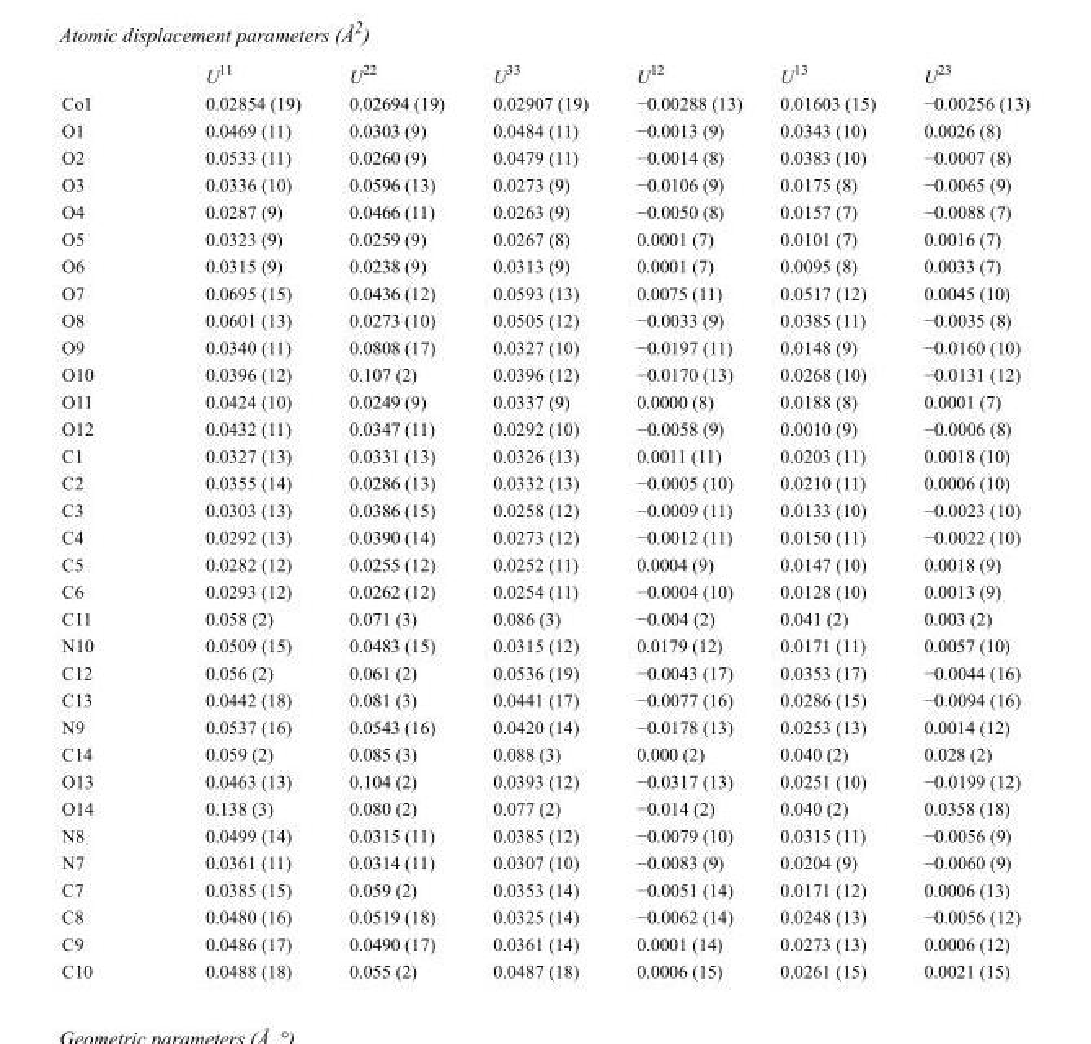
<table><thead><tr><td></td><td>U<sup>11</sup></td><td>U<sup>22</sup></td><td>U<sup>33</sup></td><td>U<sup>12</sup></td><td>U<sup>13</sup></td><td>U<sup>23</sup></td></tr></thead><tbody><tr><td>Co1</td><td>0.02854 (19)</td><td>0.02694 (19)</td><td>0.02907 (19)</td><td>−0.00288 (13)</td><td>0.01603 (15)</td><td>−0.00256 (13)</td></tr><tr><td>O1</td><td>0.0469 (11)</td><td>0.0303 (9)</td><td>0.0484 (11)</td><td>−0.0013 (9)</td><td>0.0343 (10)</td><td>0.0026 (8)</td></tr><tr><td>O2</td><td>0.0533 (11)</td><td>0.0260 (9)</td><td>0.0479 (11)</td><td>−0.0014 (8)</td><td>0.0383 (10)</td><td>−0.0007 (8)</td></tr><tr><td>O3</td><td>0.0336 (10)</td><td>0.0596 (13)</td><td>0.0273 (9)</td><td>−0.0106 (9)</td><td>0.0175 (8)</td><td>−0.0065 (9)</td></tr><tr><td>O4</td><td>0.0287 (9)</td><td>0.0466 (11)</td><td>0.0263 (9)</td><td>−0.0050 (8)</td><td>0.0157 (7)</td><td>−0.0088 (7)</td></tr><tr><td>O5</td><td>0.0323 (9)</td><td>0.0259 (9)</td><td>0.0267 (8)</td><td>0.0001 (7)</td><td>0.0101 (7)</td><td>0.0016 (7)</td></tr><tr><td>O6</td><td>0.0315 (9)</td><td>0.0238 (9)</td><td>0.0313 (9)</td><td>0.0001 (7)</td><td>0.0095 (8)</td><td>0.0033 (7)</td></tr><tr><td>O7</td><td>0.0695 (15)</td><td>0.0436 (12)</td><td>0.0593 (13)</td><td>0.0075 (11)</td><td>0.0517 (12)</td><td>0.0045 (10)</td></tr><tr><td>O8</td><td>0.0601 (13)</td><td>0.0273 (10)</td><td>0.0505 (12)</td><td>−0.0033 (9)</td><td>0.0385 (11)</td><td>−0.0035 (8)</td></tr><tr><td>O9</td><td>0.0340 (11)</td><td>0.0808 (17)</td><td>0.0327 (10)</td><td>−0.0197 (11)</td><td>0.0148 (9)</td><td>−0.0160 (10)</td></tr><tr><td>O10</td><td>0.0396 (12)</td><td>0.107 (2)</td><td>0.0396 (12)</td><td>−0.0170 (13)</td><td>0.0268 (10)</td><td>−0.0131 (12)</td></tr><tr><td>O11</td><td>0.0424 (10)</td><td>0.0249 (9)</td><td>0.0337 (9)</td><td>0.0000 (8)</td><td>0.0188 (8)</td><td>0.0001 (7)</td></tr><tr><td>O12</td><td>0.0432 (11)</td><td>0.0347 (11)</td><td>0.0292 (10)</td><td>−0.0058 (9)</td><td>0.0010 (9)</td><td>−0.0006 (8)</td></tr><tr><td>C1</td><td>0.0327 (13)</td><td>0.0331 (13)</td><td>0.0326 (13)</td><td>0.0011 (11)</td><td>0.0203 (11)</td><td>0.0018 (10)</td></tr><tr><td>C2</td><td>0.0355 (14)</td><td>0.0286 (13)</td><td>0.0332 (13)</td><td>−0.0005 (10)</td><td>0.0210 (11)</td><td>0.0006 (10)</td></tr><tr><td>C3</td><td>0.0303 (13)</td><td>0.0386 (15)</td><td>0.0258 (12)</td><td>−0.0009 (11)</td><td>0.0133 (10)</td><td>−0.0023 (10)</td></tr><tr><td>C4</td><td>0.0292 (13)</td><td>0.0390 (14)</td><td>0.0273 (12)</td><td>−0.0012 (11)</td><td>0.0150 (11)</td><td>−0.0022 (10)</td></tr><tr><td>C5</td><td>0.0282 (12)</td><td>0.0255 (12)</td><td>0.0252 (11)</td><td>0.0004 (9)</td><td>0.0147 (10)</td><td>0.0018 (9)</td></tr><tr><td>C6</td><td>0.0293 (12)</td><td>0.0262 (12)</td><td>0.0254 (11)</td><td>−0.0004 (10)</td><td>0.0128 (10)</td><td>0.0013 (9)</td></tr><tr><td>C11</td><td>0.058 (2)</td><td>0.071 (3)</td><td>0.086 (3)</td><td>−0.004 (2)</td><td>0.041 (2)</td><td>0.003 (2)</td></tr><tr><td>N10</td><td>0.0509 (15)</td><td>0.0483 (15)</td><td>0.0315 (12)</td><td>0.0179 (12)</td><td>0.0171 (11)</td><td>0.0057 (10)</td></tr><tr><td>C12</td><td>0.056 (2)</td><td>0.061 (2)</td><td>0.0536 (19)</td><td>−0.0043 (17)</td><td>0.0353 (17)</td><td>−0.0044 (16)</td></tr><tr><td>C13</td><td>0.0442 (18)</td><td>0.081 (3)</td><td>0.0441 (17)</td><td>−0.0077 (16)</td><td>0.0286 (15)</td><td>−0.0094 (16)</td></tr><tr><td>N9</td><td>0.0537 (16)</td><td>0.0543 (16)</td><td>0.0420 (14)</td><td>−0.0178 (13)</td><td>0.0253 (13)</td><td>0.0014 (12)</td></tr><tr><td>C14</td><td>0.059 (2)</td><td>0.085 (3)</td><td>0.088 (3)</td><td>0.000 (2)</td><td>0.040 (2)</td><td>0.028 (2)</td></tr><tr><td>O13</td><td>0.0463 (13)</td><td>0.104 (2)</td><td>0.0393 (12)</td><td>−0.0317 (13)</td><td>0.0251 (10)</td><td>−0.0199 (12)</td></tr><tr><td>O14</td><td>0.138 (3)</td><td>0.080 (2)</td><td>0.077 (2)</td><td>−0.014 (2)</td><td>0.040 (2)</td><td>0.0358 (18)</td></tr><tr><td>N8</td><td>0.0499 (14)</td><td>0.0315 (11)</td><td>0.0385 (12)</td><td>−0.0079 (10)</td><td>0.0315 (11)</td><td>−0.0056 (9)</td></tr><tr><td>N7</td><td>0.0361 (11)</td><td>0.0314 (11)</td><td>0.0307 (10)</td><td>−0.0083 (9)</td><td>0.0204 (9)</td><td>−0.0060 (9)</td></tr><tr><td>C7</td><td>0.0385 (15)</td><td>0.059 (2)</td><td>0.0353 (14)</td><td>−0.0051 (14)</td><td>0.0171 (12)</td><td>0.0006 (13)</td></tr><tr><td>C8</td><td>0.0480 (16)</td><td>0.0519 (18)</td><td>0.0325 (14)</td><td>−0.0062 (14)</td><td>0.0248 (13)</td><td>−0.0056 (12)</td></tr><tr><td>C9</td><td>0.0486 (17)</td><td>0.0490 (17)</td><td>0.0361 (14)</td><td>0.0001 (14)</td><td>0.0273 (13)</td><td>0.0006 (12)</td></tr><tr><td>C10</td><td>0.0488 (18)</td><td>0.055 (2)</td><td>0.0487 (18)</td><td>0.0006 (15)</td><td>0.0261 (15)</td><td>0.0021 (15)</td></tr></tbody></table>